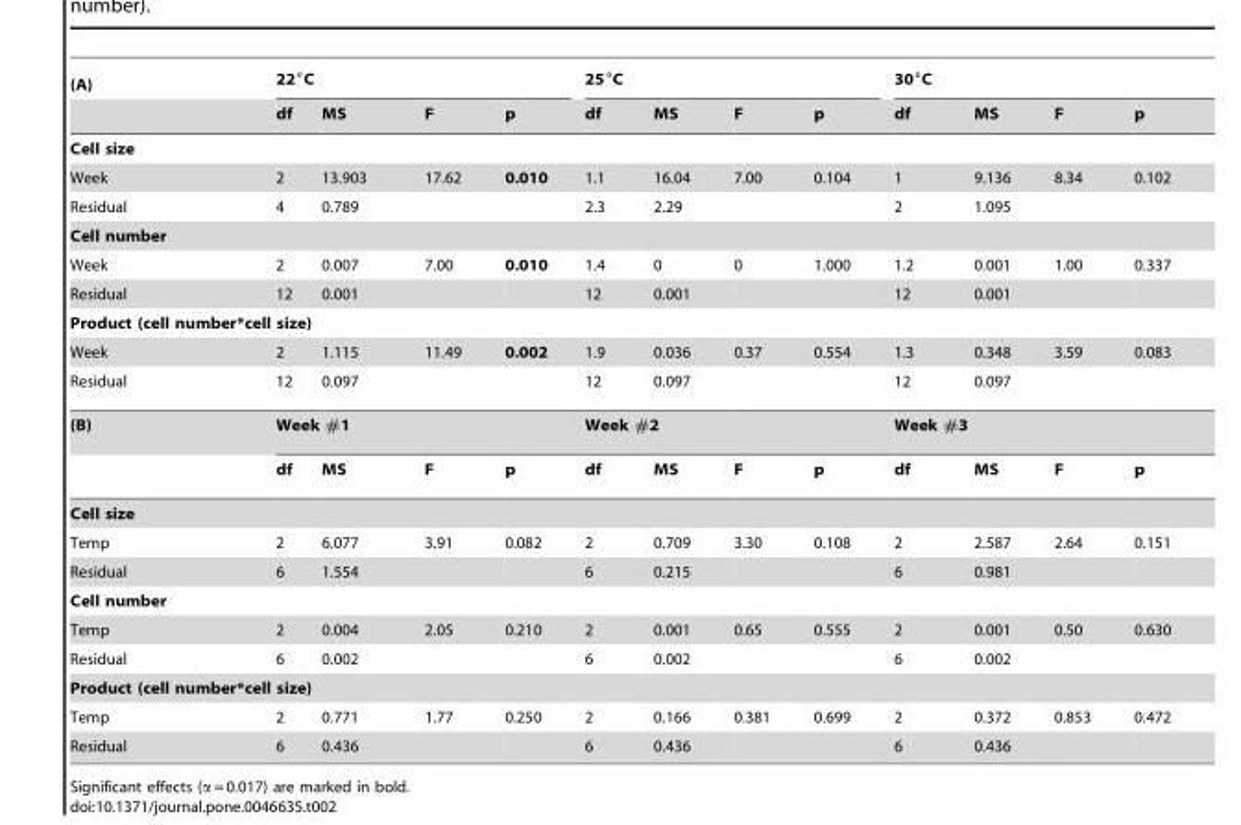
<table><thead><tr><td rowspan="2">(A)</td><td colspan="4">22°C</td><td colspan="4">25°C</td><td colspan="4">30°C</td></tr><tr><td>df</td><td>MS</td><td>F</td><td>p</td><td>df</td><td>MS</td><td>F</td><td>p</td><td>df</td><td>MS</td><td>F</td><td>p</td></tr></thead><tbody><tr><td colspan="13">Cell size</td></tr><tr><td>Week</td><td>2</td><td>13.903</td><td>17.62</td><td>0.010</td><td>1.1</td><td>16.04</td><td>7.00</td><td>0.104</td><td>1</td><td>9.136</td><td>8.34</td><td>0.102</td></tr><tr><td>Residual</td><td>4</td><td>0.789</td><td></td><td></td><td>2.3</td><td>2.29</td><td></td><td></td><td>2</td><td>1.095</td><td></td><td></td></tr><tr><td colspan="13">Cell number</td></tr><tr><td>Week</td><td>2</td><td>0.007</td><td>7.00</td><td>0.010</td><td>1.4</td><td>0</td><td>0</td><td>1.000</td><td>1.2</td><td>0.001</td><td>1.00</td><td>0.337</td></tr><tr><td>Residual</td><td>12</td><td>0.001</td><td></td><td></td><td>12</td><td>0.001</td><td></td><td></td><td>12</td><td>0.001</td><td></td><td></td></tr><tr><td colspan="13">Product (cell number*cell size)</td></tr><tr><td>Week</td><td>2</td><td>1.115</td><td>11.49</td><td>0.002</td><td>1.9</td><td>0.036</td><td>0.37</td><td>0.554</td><td>1.3</td><td>0.348</td><td>3.59</td><td>0.083</td></tr><tr><td>Residual</td><td>12</td><td>0.097</td><td></td><td></td><td>12</td><td>0.097</td><td></td><td></td><td>12</td><td>0.097</td><td></td><td></td></tr><tr><td rowspan="2">(B)</td><td colspan="4">Week #1</td><td colspan="4">Week #2</td><td colspan="4">Week #3</td></tr><tr><td>df</td><td>MS</td><td>F</td><td>p</td><td>df</td><td>MS</td><td>F</td><td>p</td><td>df</td><td>MS</td><td>F</td><td>p</td></tr><tr><td colspan="13">Cell size</td></tr><tr><td>Temp</td><td>2</td><td>6.077</td><td>3.91</td><td>0.082</td><td>2</td><td>0.709</td><td>3.30</td><td>0.108</td><td>2</td><td>2.587</td><td>2.64</td><td>0.151</td></tr><tr><td>Residual</td><td>6</td><td>1.554</td><td></td><td></td><td>6</td><td>0.215</td><td></td><td></td><td>6</td><td>0.981</td><td></td><td></td></tr><tr><td colspan="13">Cell number</td></tr><tr><td>Temp</td><td>2</td><td>0.004</td><td>2.05</td><td>0.210</td><td>2</td><td>0.001</td><td>0.65</td><td>0.555</td><td>2</td><td>0.001</td><td>0.50</td><td>0.630</td></tr><tr><td>Residual</td><td>6</td><td>0.002</td><td></td><td></td><td>6</td><td>0.002</td><td></td><td></td><td>6</td><td>0.002</td><td></td><td></td></tr><tr><td colspan="13">Product (cell number*cell size)</td></tr><tr><td>Temp</td><td>2</td><td>0.771</td><td>1.77</td><td>0.250</td><td>2</td><td>0.166</td><td>0.381</td><td>0.699</td><td>2</td><td>0.372</td><td>0.853</td><td>0.472</td></tr><tr><td>Residual</td><td>6</td><td>0.436</td><td></td><td></td><td>6</td><td>0.436</td><td></td><td></td><td>6</td><td>0.436</td><td></td><td></td></tr></tbody></table>